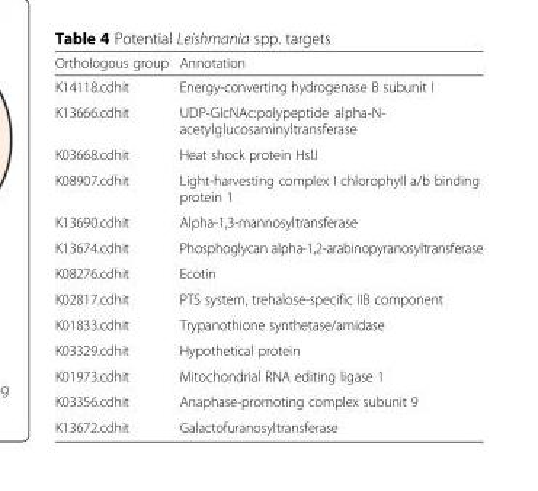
<table><thead><tr><td>Orthologous group</td><td>Annotation</td></tr></thead><tbody><tr><td>K14118.cdhit</td><td>Energy-converting hydrogenase B subunit I</td></tr><tr><td>K13666.cdhit</td><td>UDP-GlcNAc:polypeptide alpha-N- acetylglucosaminyltransferase</td></tr><tr><td>K03668.cdhit</td><td>Heat shock protein HslJ</td></tr><tr><td>K08907.cdhit</td><td>Light-harvesting complex I chlorophyll a/b binding protein 1</td></tr><tr><td>K13690.cdhit</td><td>Alpha-1,3-mannosyltransferase</td></tr><tr><td>K13674.cdhit</td><td>Phosphoglycan alpha-1,2-arabinopyranosyltransferase</td></tr><tr><td>K08276.cdhit</td><td>Ecotin</td></tr><tr><td>K02817.cdhit</td><td>PTS system, trehalose-specific IIB component</td></tr><tr><td>K01833.cdhit</td><td>Trypanothione synthetase/amidase</td></tr><tr><td>K03329.cdhit</td><td>Hypothetical protein</td></tr><tr><td>K01973.cdhit</td><td>Mitochondrial RNA editing ligase 1</td></tr><tr><td>K03356.cdhit</td><td>Anaphase-promoting complex subunit 9</td></tr><tr><td>K13672.cdhit</td><td>Galactofuranosyltransferase</td></tr></tbody></table>